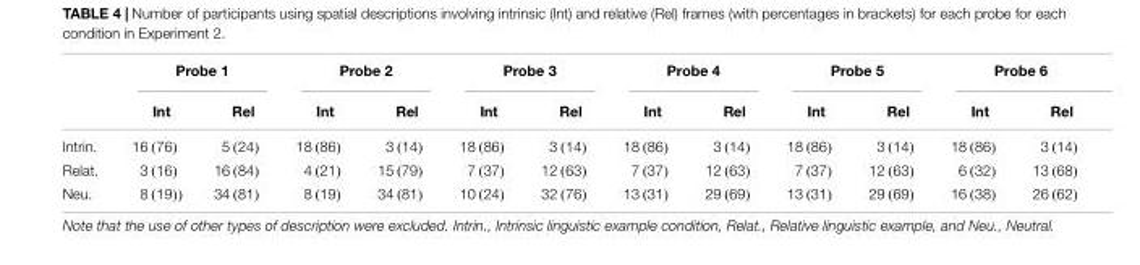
<table><thead><tr><td rowspan="2"></td><td colspan="2">Probe 1</td><td colspan="2">Probe 2</td><td colspan="2">Probe 3</td><td colspan="2">Probe 4</td><td colspan="2">Probe 5</td><td colspan="2">Probe 6</td></tr><tr><td>Int</td><td>Rel</td><td>Int</td><td>Rel</td><td>Int</td><td>Rel</td><td>Int</td><td>Rel</td><td>Int</td><td>Rel</td><td>Int</td><td>Rel</td></tr></thead><tbody><tr><td>Intrin.</td><td>16 (76)</td><td>5 (24)</td><td>18 (86)</td><td>3 (14)</td><td>18 (86)</td><td>3 (14)</td><td>18 (86)</td><td>3 (14)</td><td>18 (86)</td><td>3 (14)</td><td>18 (86)</td><td>3 (14)</td></tr><tr><td>Relat.</td><td>3 (16)</td><td>16 (84)</td><td>4 (21)</td><td>15 (79)</td><td>7 (37)</td><td>12 (63)</td><td>7 (37)</td><td>12 (63)</td><td>7 (37)</td><td>12 (63)</td><td>6 (32)</td><td>13 (68)</td></tr><tr><td>Neu.</td><td>8 (19))</td><td>34 (81)</td><td>8 (19)</td><td>34 (81)</td><td>10 (24)</td><td>32 (76)</td><td>13 (31)</td><td>29 (69)</td><td>13 (31)</td><td>29 (69)</td><td>16 (38)</td><td>26 (62)</td></tr></tbody></table>